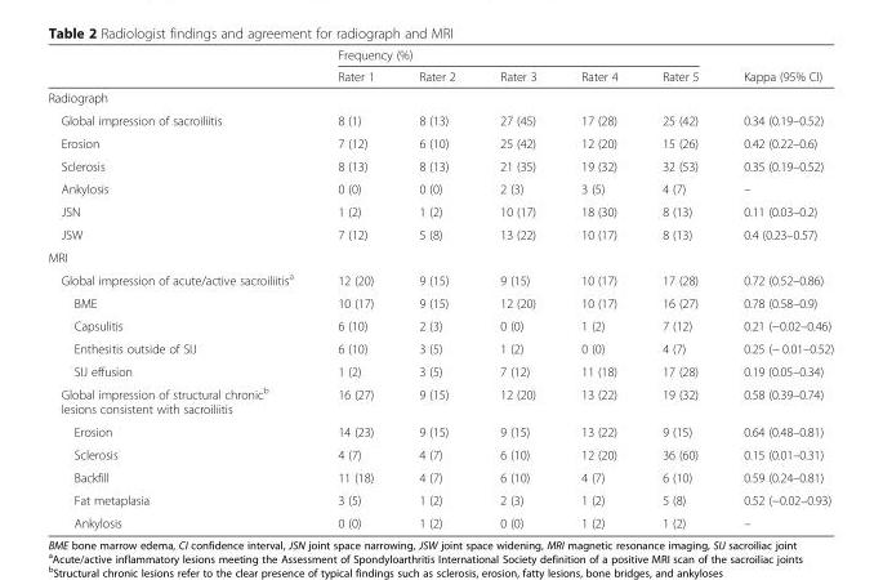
<table><thead><tr><td rowspan="2"></td><td colspan="5">Frequency (%)</td><td rowspan="2">Kappa (95% CI)</td></tr><tr><td>Rater 1</td><td>Rater 2</td><td>Rater 3</td><td>Rater 4</td><td>Rater 5</td></tr></thead><tbody><tr><td colspan="7">Radiograph</td></tr><tr><td>Global impression of sacroiliitis</td><td>8 (1)</td><td>8 (13)</td><td>27 (45)</td><td>17 (28)</td><td>25 (42)</td><td>0.34 (0.19–0.52)</td></tr><tr><td>Erosion</td><td>7 (12)</td><td>6 (10)</td><td>25 (42)</td><td>12 (20)</td><td>15 (26)</td><td>0.42 (0.22–0.6)</td></tr><tr><td>Sclerosis</td><td>8 (13)</td><td>8 (13)</td><td>21 (35)</td><td>19 (32)</td><td>32 (53)</td><td>0.35 (0.19–0.52)</td></tr><tr><td>Ankylosis</td><td>0 (0)</td><td>0 (0)</td><td>2 (3)</td><td>3 (5)</td><td>4 (7)</td><td>–</td></tr><tr><td>JSN</td><td>1 (2)</td><td>1 (2)</td><td>10 (17)</td><td>18 (30)</td><td>8 (13)</td><td>0.11 (0.03–0.2)</td></tr><tr><td>JSW</td><td>7 (12)</td><td>5 (8)</td><td>13 (22)</td><td>10 (17)</td><td>8 (13)</td><td>0.4 (0.23–0.57)</td></tr><tr><td colspan="7">MRI</td></tr><tr><td>Global impression of acute/active sacroiliitis<sup>a</sup></td><td>12 (20)</td><td>9 (15)</td><td>9 (15)</td><td>10 (17)</td><td>17 (28)</td><td>0.72 (0.52–0.86)</td></tr><tr><td>BME</td><td>10 (17)</td><td>9 (15)</td><td>12 (20)</td><td>10 (17)</td><td>16 (27)</td><td>0.78 (0.58–0.9)</td></tr><tr><td>Capsulitis</td><td>6 (10)</td><td>2 (3)</td><td>0 (0)</td><td>1 (2)</td><td>7 (12)</td><td>0.21 (−0.02–0.46)</td></tr><tr><td>Enthesitis outside of SIJ</td><td>6 (10)</td><td>3 (5)</td><td>1 (2)</td><td>0 (0)</td><td>4 (7)</td><td>0.25 (− 0.01–0.52)</td></tr><tr><td>SIJ effusion</td><td>1 (2)</td><td>3 (5)</td><td>7 (12)</td><td>11 (18)</td><td>17 (28)</td><td>0.19 (0.05–0.34)</td></tr><tr><td>Global impression of structural chronic<sup>b</sup> lesions consistent with sacroiliitis</td><td>16 (27)</td><td>9 (15)</td><td>12 (20)</td><td>13 (22)</td><td>19 (32)</td><td>0.58 (0.39–0.74)</td></tr><tr><td>Erosion</td><td>14 (23)</td><td>9 (15)</td><td>9 (15)</td><td>13 (22)</td><td>9 (15)</td><td>0.64 (0.48–0.81)</td></tr><tr><td>Sclerosis</td><td>4 (7)</td><td>4 (7)</td><td>6 (10)</td><td>12 (20)</td><td>36 (60)</td><td>0.15 (0.01–0.31)</td></tr><tr><td>Backfill</td><td>11 (18)</td><td>4 (7)</td><td>6 (10)</td><td>4 (7)</td><td>6 (10)</td><td>0.59 (0.24–0.81)</td></tr><tr><td>Fat metaplasia</td><td>3 (5)</td><td>1 (2)</td><td>2 (3)</td><td>1 (2)</td><td>5 (8)</td><td>0.52 (−0.02–0.93)</td></tr><tr><td>Ankylosis</td><td>0 (0)</td><td>1 (2)</td><td>0 (0)</td><td>1 (2)</td><td>1 (2)</td><td>–</td></tr></tbody></table>